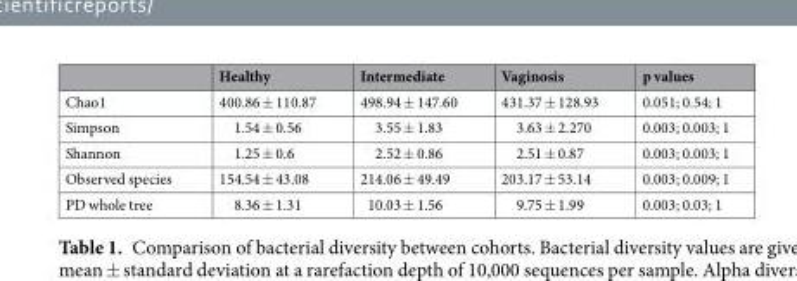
<table><thead><tr><td></td><td>Healthy</td><td>Intermediate</td><td>Vaginosis</td><td>p values</td></tr></thead><tbody><tr><td>Chao1</td><td>400.86 ± 110.87</td><td>498.94 ± 147.60</td><td>431.37 ± 128.93</td><td>0.051; 0.54; 1</td></tr><tr><td>Simpson</td><td>1.54 ± 0.56</td><td>3.55 ± 1.83</td><td>3.63 ± 2.270</td><td>0.003; 0.003; 1</td></tr><tr><td>Shannon</td><td>1.25 ± 0.6</td><td>2.52 ± 0.86</td><td>2.51 ± 0.87</td><td>0.003; 0.003; 1</td></tr><tr><td>Observed species</td><td>154.54 ± 43.08</td><td>214.06 ± 49.49</td><td>203.17 ± 53.14</td><td>0.003; 0.009; 1</td></tr><tr><td>PD whole tree</td><td>8.36 ± 1.31</td><td>10.03 ± 1.56</td><td>9.75 ± 1.99</td><td>0.003; 0.03; 1</td></tr></tbody></table>